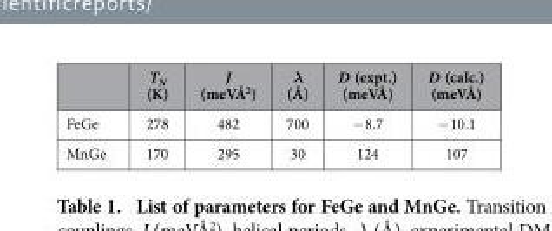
<table><thead><tr><td></td><td>T<sub>N</sub> (K)</td><td>J (meVÅ<sup>2</sup>)</td><td>λ (Å)</td><td>D (expt.) (meVÅ)</td><td>D (calc.) (meVÅ)</td></tr></thead><tbody><tr><td>FeGe</td><td>278</td><td>482</td><td>700</td><td>− 8.7</td><td>− 10.1</td></tr><tr><td>MnGe</td><td>170</td><td>295</td><td>30</td><td>124</td><td>107</td></tr></tbody></table>